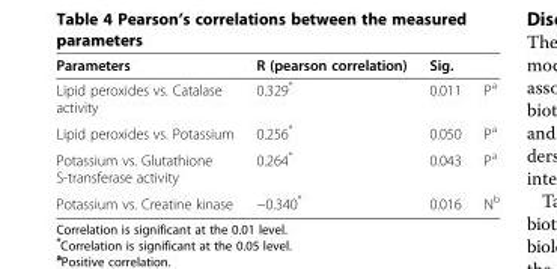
<table><thead><tr><td>Parameters</td><td>R (pearson correlation)</td><td>Sig.</td><td></td></tr></thead><tbody><tr><td>Lipid peroxides vs. Catalase activity</td><td>0.329*</td><td>0.011</td><td>P<sup>a</sup></td></tr><tr><td>Lipid peroxides vs. Potassium</td><td>0.256*</td><td>0.050</td><td>P<sup>a</sup></td></tr><tr><td>Potassium vs. Glutathione S-transferase activity</td><td>0.264*</td><td>0.043</td><td>P<sup>a</sup></td></tr><tr><td>Potassium vs. Creatine kinase</td><td>−0.340*</td><td>0.016</td><td>N<sup>b</sup></td></tr></tbody></table>